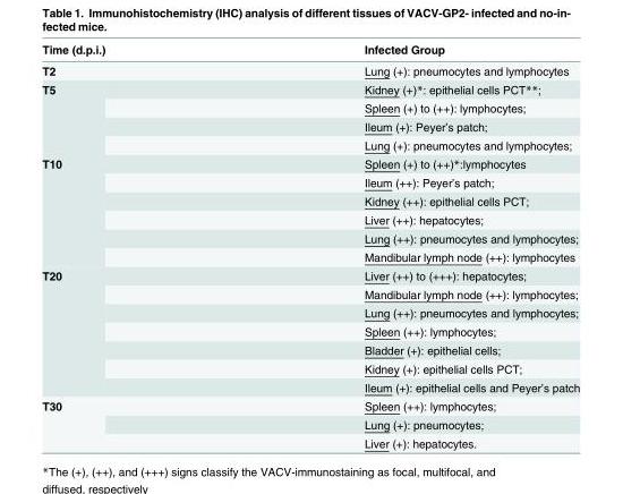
<table><thead><tr><td>Time (d.p.i.)</td><td>Infected Group</td></tr></thead><tbody><tr><td>T2</td><td>Lung (+): pneumocytes and lymphocytes</td></tr><tr><td rowspan="4">T5</td><td>Kidney (+)*: epithelial cells PCT**;</td></tr><tr><td>Spleen (+) to (++): lymphocytes;</td></tr><tr><td>Ileum (+): Peyer’s patch;</td></tr><tr><td>Lung (+): pneumocytes and lymphocytes;</td></tr><tr><td rowspan="6">T10</td><td>Spleen (+) to (++)*:lymphocytes</td></tr><tr><td>Ileum (++): Peyer’s patch;</td></tr><tr><td>Kidney (++): epithelial cells PCT;</td></tr><tr><td>Liver (++): hepatocytes;</td></tr><tr><td>Lung (++): pneumocytes and lymphocytes;</td></tr><tr><td>Mandibular lymph node (++): lymphocytes</td></tr><tr><td rowspan="7">T20</td><td>Liver (++) to (+++): hepatocytes;</td></tr><tr><td>Mandibular lymph node (++): lymphocytes;</td></tr><tr><td>Lung (++): pneumocytes and lymphocytes;</td></tr><tr><td>Spleen (++): lymphocytes;</td></tr><tr><td>Bladder (+): epithelial cells;</td></tr><tr><td>Kidney (+): epithelial cells PCT;</td></tr><tr><td>Ileum (+): epithelial cells and Peyer’s patch</td></tr><tr><td rowspan="3">T30</td><td>Spleen (++): lymphocytes;</td></tr><tr><td>Lung (+): pneumocytes;</td></tr><tr><td>Liver (+): hepatocytes.</td></tr></tbody></table>